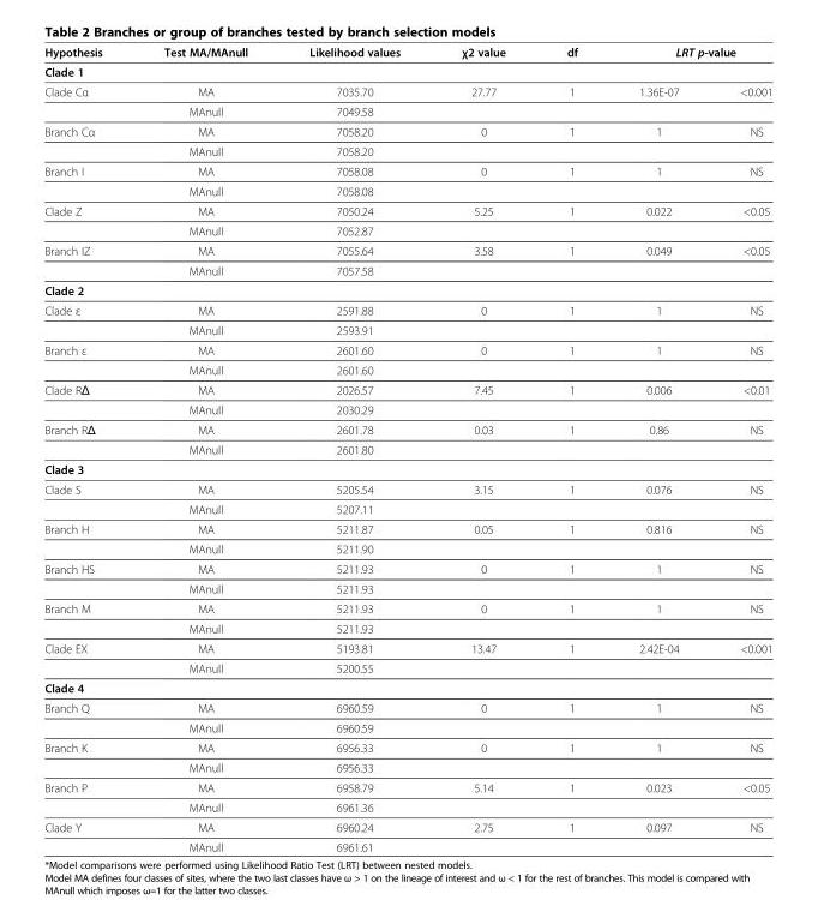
<table><thead><tr><td rowspan="2">Hypothesis Clade 1</td><td rowspan="2">Test MA/MAnull</td><td rowspan="2">Likelihood values</td><td rowspan="2">χ2 value</td><td rowspan="2">df</td><td colspan="2">LRT p-value</td></tr><tr><td></td><td></td></tr></thead><tbody><tr><td rowspan="2">Clade Cα</td><td>MA</td><td>7035.70</td><td>27.77</td><td>1</td><td>1.36E-07</td><td>&lt;0.001</td></tr><tr><td>MAnull</td><td>7049.58</td><td></td><td></td><td></td><td></td></tr><tr><td rowspan="2">Branch Cα</td><td>MA</td><td>7058.20</td><td>0</td><td>1</td><td>1</td><td>NS</td></tr><tr><td>MAnull</td><td>7058.20</td><td></td><td></td><td></td><td></td></tr><tr><td rowspan="2">Branch I</td><td>MA</td><td>7058.08</td><td>0</td><td>1</td><td>1</td><td>NS</td></tr><tr><td>MAnull</td><td>7058.08</td><td></td><td></td><td></td><td></td></tr><tr><td rowspan="2">Clade Z</td><td>MA</td><td>7050.24</td><td>5.25</td><td>1</td><td>0.022</td><td>&lt;0.05</td></tr><tr><td>MAnull</td><td>7052.87</td><td></td><td></td><td></td><td></td></tr><tr><td rowspan="2">Branch IZ</td><td>MA</td><td>7055.64</td><td>3.58</td><td>1</td><td>0.049</td><td>&lt;0.05</td></tr><tr><td>MAnull</td><td>7057.58</td><td></td><td></td><td></td><td></td></tr><tr><td colspan="7">Clade 2</td></tr><tr><td rowspan="2">Clade ε</td><td>MA</td><td>2591.88</td><td>0</td><td>1</td><td>1</td><td>NS</td></tr><tr><td>MAnull</td><td>2593.91</td><td></td><td></td><td></td><td></td></tr><tr><td rowspan="2">Branch ε</td><td>MA</td><td>2601.60</td><td>0</td><td>1</td><td>1</td><td>NS</td></tr><tr><td>MAnull</td><td>2601.60</td><td></td><td></td><td></td><td></td></tr><tr><td rowspan="2">Clade RΔ</td><td>MA</td><td>2026.57</td><td>7.45</td><td>1</td><td>0.006</td><td>&lt;0.01</td></tr><tr><td>MAnull</td><td>2030.29</td><td></td><td></td><td></td><td></td></tr><tr><td rowspan="2">Branch RΔ</td><td>MA</td><td>2601.78</td><td>0.03</td><td>1</td><td>0.86</td><td>NS</td></tr><tr><td>MAnull</td><td>2601.80</td><td></td><td></td><td></td><td></td></tr><tr><td colspan="7">Clade 3</td></tr><tr><td rowspan="2">Clade S</td><td>MA</td><td>5205.54</td><td>3.15</td><td>1</td><td>0.076</td><td>NS</td></tr><tr><td>MAnull</td><td>5207.11</td><td></td><td></td><td></td><td></td></tr><tr><td rowspan="2">Branch H</td><td>MA</td><td>5211.87</td><td>0.05</td><td>1</td><td>0.816</td><td>NS</td></tr><tr><td>MAnull</td><td>5211.90</td><td></td><td></td><td></td><td></td></tr><tr><td rowspan="2">Branch HS</td><td>MA</td><td>5211.93</td><td>0</td><td>1</td><td>1</td><td>NS</td></tr><tr><td>MAnull</td><td>5211.93</td><td></td><td></td><td></td><td></td></tr><tr><td rowspan="2">Branch M</td><td>MA</td><td>5211.93</td><td>0</td><td>1</td><td>1</td><td>NS</td></tr><tr><td>MAnull</td><td>5211.93</td><td></td><td></td><td></td><td></td></tr><tr><td rowspan="2">Clade EX</td><td>MA</td><td>5193.81</td><td>13.47</td><td>1</td><td>2.42E-04</td><td>&lt;0.001</td></tr><tr><td>MAnull</td><td>5200.55</td><td></td><td></td><td></td><td></td></tr><tr><td colspan="7">Clade 4</td></tr><tr><td rowspan="2">Branch Q</td><td>MA</td><td>6960.59</td><td>0</td><td>1</td><td>1</td><td>NS</td></tr><tr><td>MAnull</td><td>6960.59</td><td></td><td></td><td></td><td></td></tr><tr><td rowspan="2">Branch K</td><td>MA</td><td>6956.33</td><td>0</td><td>1</td><td>1</td><td>NS</td></tr><tr><td>MAnull</td><td>6956.33</td><td></td><td></td><td></td><td></td></tr><tr><td rowspan="2">Branch P</td><td>MA</td><td>6958.79</td><td>5.14</td><td>1</td><td>0.023</td><td>&lt;0.05</td></tr><tr><td>MAnull</td><td>6961.36</td><td></td><td></td><td></td><td></td></tr><tr><td rowspan="2">Clade Y</td><td>MA</td><td>6960.24</td><td>2.75</td><td>1</td><td>0.097</td><td>NS</td></tr><tr><td>MAnull</td><td>6961.61</td><td></td><td></td><td></td><td></td></tr></tbody></table>